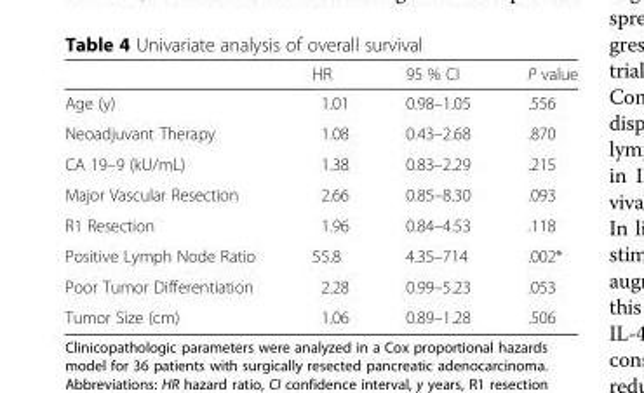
<table><thead><tr><td></td><td>HR</td><td>95 % CI</td><td>P value</td></tr></thead><tbody><tr><td>Age (y)</td><td>1.01</td><td>0.98–1.05</td><td>.556</td></tr><tr><td>Neoadjuvant Therapy</td><td>1.08</td><td>0.43–2.68</td><td>.870</td></tr><tr><td>CA 19–9 (kU/mL)</td><td>1.38</td><td>0.83–2.29</td><td>.215</td></tr><tr><td>Major Vascular Resection</td><td>2.66</td><td>0.85–8.30</td><td>.093</td></tr><tr><td>R1 Resection</td><td>1.96</td><td>0.84–4.53</td><td>.118</td></tr><tr><td>Positive Lymph Node Ratio</td><td>55.8</td><td>4.35–714</td><td>.002*</td></tr><tr><td>Poor Tumor Differentiation</td><td>2.28</td><td>0.99–5.23</td><td>.053</td></tr><tr><td>Tumor Size (cm)</td><td>1.06</td><td>0.89–1.28</td><td>.506</td></tr></tbody></table>